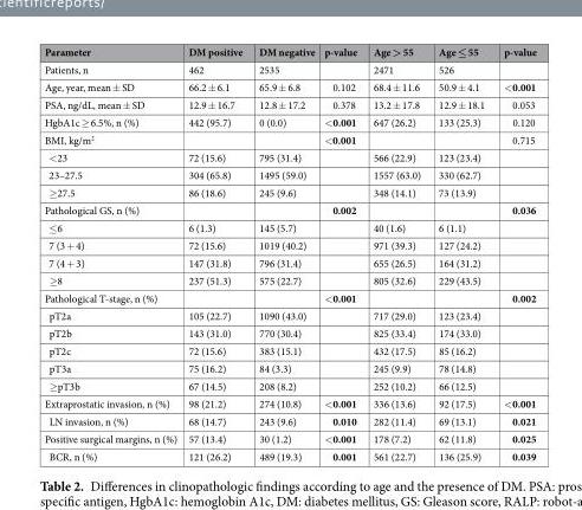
<table><thead><tr><td>Parameter</td><td>DM positive</td><td>DM negative</td><td>p-value</td><td>Age &gt; 55</td><td>Age ≤ 55</td><td>p-value</td></tr></thead><tbody><tr><td>Patients, n</td><td>462</td><td>2535</td><td></td><td>2471</td><td>526</td><td></td></tr><tr><td>Age, year, mean ± SD</td><td>66.2 ± 6.1</td><td>65.9 ± 6.8</td><td>0.102</td><td>68.4 ± 11.6</td><td>50.9 ± 4.1</td><td>&lt;0.001</td></tr><tr><td>PSA, ng/dL, mean ± SD</td><td>12.9 ± 16.7</td><td>12.8 ± 17.2</td><td>0.378</td><td>13.2 ± 17.8</td><td>12.9 ± 18.1</td><td>0.053</td></tr><tr><td>HgbA1c ≥ 6.5%, n (%)</td><td>442 (95.7)</td><td>0 (0.0)</td><td>&lt;0.001</td><td>647 (26.2)</td><td>133 (25.3)</td><td>0.120</td></tr><tr><td>BMI, kg/m<sup>2</sup></td><td></td><td></td><td>&lt;0.001</td><td></td><td></td><td>0.715</td></tr><tr><td>&lt;23</td><td>72 (15.6)</td><td>795 (31.4)</td><td></td><td>566 (22.9)</td><td>123 (23.4)</td><td></td></tr><tr><td>23–27.5</td><td>304 (65.8)</td><td>1495 (59.0)</td><td></td><td>1557 (63.0)</td><td>330 (62.7)</td><td></td></tr><tr><td>≥27.5</td><td>86 (18.6)</td><td>245 (9.6)</td><td></td><td>348 (14.1)</td><td>73 (13.9)</td><td></td></tr><tr><td>Pathological GS, n (%)</td><td></td><td></td><td>0.002</td><td></td><td></td><td>0.036</td></tr><tr><td>≤6</td><td>6 (1.3)</td><td>145 (5.7)</td><td></td><td>40 (1.6)</td><td>6 (1.1)</td><td></td></tr><tr><td>7 (3 + 4)</td><td>72 (15.6)</td><td>1019 (40.2)</td><td></td><td>971 (39.3)</td><td>127 (24.2)</td><td></td></tr><tr><td>7 (4 + 3)</td><td>147 (31.8)</td><td>796 (31.4)</td><td></td><td>655 (26.5)</td><td>164 (31.2)</td><td></td></tr><tr><td>≥8</td><td>237 (51.3)</td><td>575 (22.7)</td><td></td><td>805 (32.6)</td><td>229 (43.5)</td><td></td></tr><tr><td>Pathological T-stage, n (%)</td><td></td><td></td><td>&lt;0.001</td><td></td><td></td><td>0.002</td></tr><tr><td>pT2a</td><td>105 (22.7)</td><td>1090 (43.0)</td><td></td><td>717 (29.0)</td><td>123 (23.4)</td><td></td></tr><tr><td>pT2b</td><td>143 (31.0)</td><td>770 (30.4)</td><td></td><td>825 (33.4)</td><td>174 (33.0)</td><td></td></tr><tr><td>pT2c</td><td>72 (15.6)</td><td>383 (15.1)</td><td></td><td>432 (17.5)</td><td>85 (16.2)</td><td></td></tr><tr><td>pT3a</td><td>75 (16.2)</td><td>84 (3.3)</td><td></td><td>245 (9.9)</td><td>78 (14.8)</td><td></td></tr><tr><td>≥pT3b</td><td>67 (14.5)</td><td>208 (8.2)</td><td></td><td>252 (10.2)</td><td>66 (12.5)</td><td></td></tr><tr><td>Extraprostatic invasion, n (%)</td><td>98 (21.2)</td><td>274 (10.8)</td><td>&lt;0.001</td><td>336 (13.6)</td><td>92 (17.5)</td><td>&lt;0.001</td></tr><tr><td>LN invasion, n (%)</td><td>68 (14.7)</td><td>243 (9.6)</td><td>0.010</td><td>282 (11.4)</td><td>69 (13.1)</td><td>0.021</td></tr><tr><td>Positive surgical margins, n (%)</td><td>57 (13.4)</td><td>30 (1.2)</td><td>&lt;0.001</td><td>178 (7.2)</td><td>62 (11.8)</td><td>0.025</td></tr><tr><td>BCR, n (%)</td><td>121 (26.2)</td><td>489 (19.3)</td><td>0.001</td><td>561 (22.7)</td><td>136 (25.9)</td><td>0.039</td></tr></tbody></table>